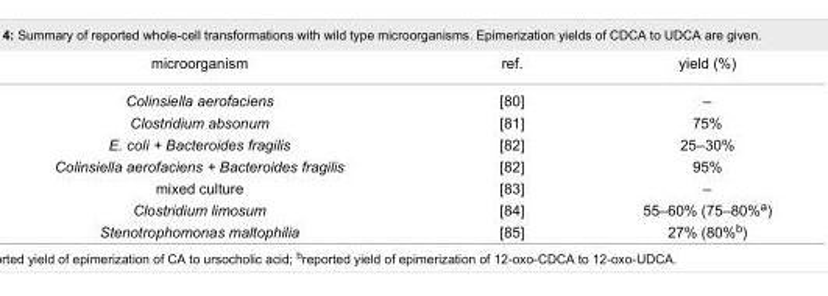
<table><tbody><tr><td>microorganism</td><td>ref.</td><td>yield (%)</td></tr><tr><td>Colinsiella aerofaciens</td><td>[80]</td><td>–</td></tr><tr><td>Clostridium absonum</td><td>[81]</td><td>75%</td></tr><tr><td>E. coli + Bacteroides fragilis</td><td>[82]</td><td>25–30%</td></tr><tr><td>Colinsiella aerofaciens + Bacteroides fragilis</td><td>[82]</td><td>95%</td></tr><tr><td>mixed culture</td><td>[83]</td><td>–</td></tr><tr><td>Clostridium limosum</td><td>[84]</td><td>55–60% (75–80%<sup>a</sup>)</td></tr><tr><td>Stenotrophomonas maltophilia</td><td>[85]</td><td>27% (80%<sup>b</sup>)</td></tr></tbody></table>